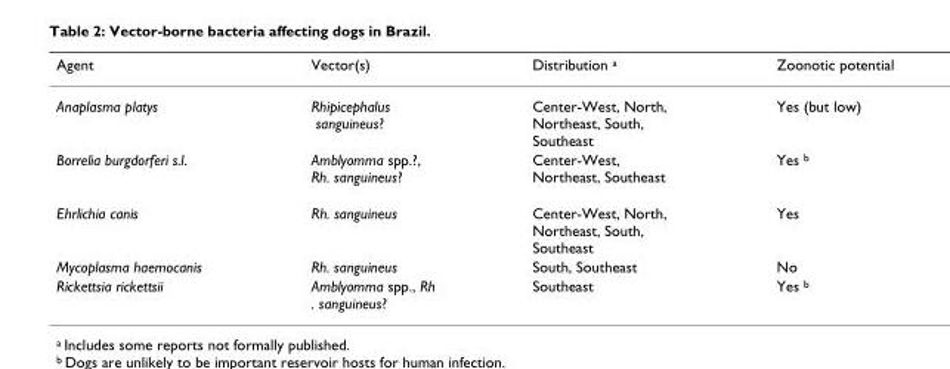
<table><thead><tr><td>Agent</td><td>Vector(s)</td><td>Distribution <sup>a</sup></td><td>Zoonotic potential</td></tr></thead><tbody><tr><td>Anaplasma platys</td><td>Rhipicephalus sanguineus?</td><td>Center-West, North, Northeast, South, Southeast</td><td>Yes (but low)</td></tr><tr><td>Borrelia burgdorferi s.l.</td><td>Amblyomma spp.?, Rh. sanguineus?</td><td>Center-West, Northeast, Southeast</td><td>Yes <sup>b</sup></td></tr><tr><td>Ehrlichia canis</td><td>Rh. sanguineus</td><td>Center-West, North, Northeast, South, Southeast</td><td>Yes</td></tr><tr><td>Mycoplasma haemocanis</td><td>Rh. sanguineus</td><td>South, Southeast</td><td>No</td></tr><tr><td>Rickettsia rickettsii</td><td>Amblyomma spp., Rh . sanguineus?</td><td>Southeast</td><td>Yes <sup>b</sup></td></tr></tbody></table>